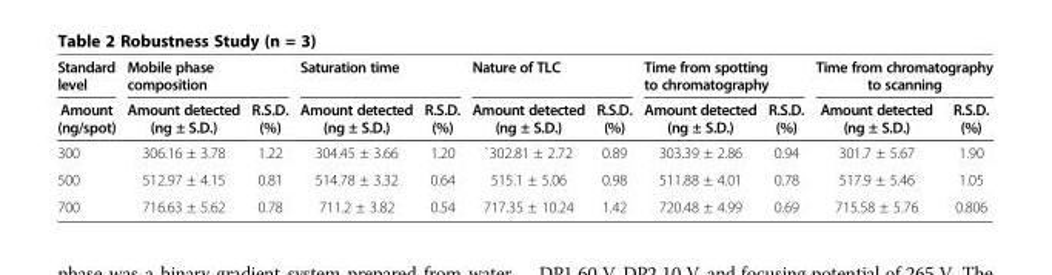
<table><thead><tr><td rowspan="2">Standard level Amount (ng/spot)</td><td colspan="2">Mobile phase composition</td><td colspan="2">Saturation time</td><td colspan="2">Nature of TLC</td><td colspan="2">Time from spotting to chromatography</td><td colspan="2">Time from chromatography to scanning</td></tr><tr><td>Amount detected (ng ± S.D.)</td><td>R.S.D. (%)</td><td>Amount detected (ng ± S.D.)</td><td>R.S.D. (%)</td><td>Amount detected (ng ± S.D.)</td><td>R.S.D. (%)</td><td>Amount detected (ng ± S.D.)</td><td>R.S.D. (%)</td><td>Amount detected (ng ± S.D.)</td><td>R.S.D. (%)</td></tr></thead><tbody><tr><td>300</td><td>306.16 ± 3.78</td><td>1.22</td><td>304.45 ± 3.66</td><td>1.20</td><td>`302.81 ± 2.72</td><td>0.89</td><td>303.39 ± 2.86</td><td>0.94</td><td>301.7 ± 5.67</td><td>1.90</td></tr><tr><td>500</td><td>512.97 ± 4.15</td><td>0.81</td><td>514.78 ± 3.32</td><td>0.64</td><td>515.1 ± 5.06</td><td>0.98</td><td>511.88 ± 4.01</td><td>0.78</td><td>517.9 ± 5.46</td><td>1.05</td></tr><tr><td>700</td><td>716.63 ± 5.62</td><td>0.78</td><td>711.2 ± 3.82</td><td>0.54</td><td>717.35 ± 10.24</td><td>1.42</td><td>720.48 ± 4.99</td><td>0.69</td><td>715.58 ± 5.76</td><td>0.806</td></tr></tbody></table>